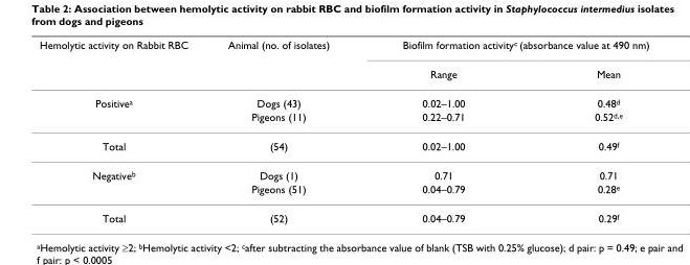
<table><thead><tr><td rowspan="2">Hemolytic activity on Rabbit RBC</td><td rowspan="2">Animal (no. of isolates)</td><td colspan="2">Biofilm formation activityc (absorbance value at 490 nm)</td></tr><tr><td>Range</td><td>Mean</td></tr></thead><tbody><tr><td rowspan="2">Positivea</td><td>Dogs (43)</td><td>0.02–1.00</td><td>0.48d</td></tr><tr><td>Pigeons (11)</td><td>0.22–0.71</td><td>0.52d,e</td></tr><tr><td>Total</td><td>(54)</td><td>0.02–1.00</td><td>0.49f</td></tr><tr><td rowspan="2">Negativeb</td><td>Dogs (1)</td><td>0.71</td><td>0.71</td></tr><tr><td>Pigeons (51)</td><td>0.04–0.79</td><td>0.28e</td></tr><tr><td>Total</td><td>(52)</td><td>0.04–0.79</td><td>0.29f</td></tr></tbody></table>